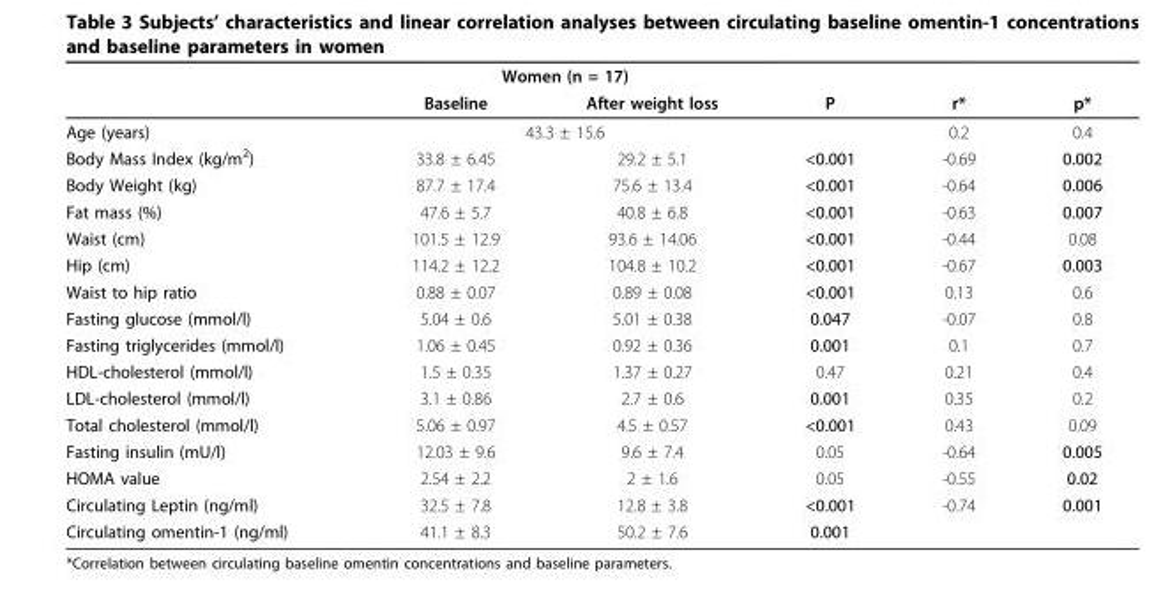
<table><thead><tr><td rowspan="2"></td><td colspan="2">Women (n = 17)</td><td rowspan="2">P</td><td rowspan="2">r*</td><td rowspan="2">p*</td></tr><tr><td>Baseline</td><td>After weight loss</td></tr></thead><tbody><tr><td>Age (years)</td><td colspan="2">43.3 ± 15.6</td><td></td><td>0.2</td><td>0.4</td></tr><tr><td>Body Mass Index (kg/m<sup>2</sup>)</td><td>33.8 ± 6.45</td><td>29.2 ± 5.1</td><td>&lt;0.001</td><td>-0.69</td><td>0.002</td></tr><tr><td>Body Weight (kg)</td><td>87.7 ± 17.4</td><td>75.6 ± 13.4</td><td>&lt;0.001</td><td>-0.64</td><td>0.006</td></tr><tr><td>Fat mass (%)</td><td>47.6 ± 5.7</td><td>40.8 ± 6.8</td><td>&lt;0.001</td><td>-0.63</td><td>0.007</td></tr><tr><td>Waist (cm)</td><td>101.5 ± 12.9</td><td>93.6 ± 14.06</td><td>&lt;0.001</td><td>-0.44</td><td>0.08</td></tr><tr><td>Hip (cm)</td><td>114.2 ± 12.2</td><td>104.8 ± 10.2</td><td>&lt;0.001</td><td>-0.67</td><td>0.003</td></tr><tr><td>Waist to hip ratio</td><td>0.88 ± 0.07</td><td>0.89 ± 0.08</td><td>&lt;0.001</td><td>0.13</td><td>0.6</td></tr><tr><td>Fasting glucose (mmol/l)</td><td>5.04 ± 0.6</td><td>5.01 ± 0.38</td><td>0.047</td><td>-0.07</td><td>0.8</td></tr><tr><td>Fasting triglycerides (mmol/l)</td><td>1.06 ± 0.45</td><td>0.92 ± 0.36</td><td>0.001</td><td>0.1</td><td>0.7</td></tr><tr><td>HDL-cholesterol (mmol/l)</td><td>1.5 ± 0.35</td><td>1.37 ± 0.27</td><td>0.47</td><td>0.21</td><td>0.4</td></tr><tr><td>LDL-cholesterol (mmol/l)</td><td>3.1 ± 0.86</td><td>2.7 ± 0.6</td><td>0.001</td><td>0.35</td><td>0.2</td></tr><tr><td>Total cholesterol (mmol/l)</td><td>5.06 ± 0.97</td><td>4.5 ± 0.57</td><td>&lt;0.001</td><td>0.43</td><td>0.09</td></tr><tr><td>Fasting insulin (mU/l)</td><td>12.03 ± 9.6</td><td>9.6 ± 7.4</td><td>0.05</td><td>-0.64</td><td>0.005</td></tr><tr><td>HOMA value</td><td>2.54 ± 2.2</td><td>2 ± 1.6</td><td>0.05</td><td>-0.55</td><td>0.02</td></tr><tr><td>Circulating Leptin (ng/ml)</td><td>32.5 ± 7.8</td><td>12.8 ± 3.8</td><td>&lt;0.001</td><td>-0.74</td><td>0.001</td></tr><tr><td>Circulating omentin-1 (ng/ml)</td><td>41.1 ± 8.3</td><td>50.2 ± 7.6</td><td>0.001</td><td></td><td></td></tr></tbody></table>